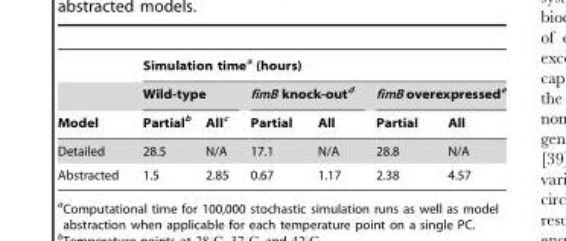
<table><thead><tr><td rowspan="3">Model</td><td colspan="6">Simulation time<sup>a</sup> (hours)</td></tr><tr><td colspan="2">Wild-type</td><td colspan="2">fimB knock-out<sup>d</sup></td><td colspan="2">fimB overexpressed<sup>e</sup></td></tr><tr><td>Partial<sup>b</sup></td><td>All<sup>c</sup></td><td>Partial</td><td>All</td><td>Partial</td><td>All</td></tr></thead><tbody><tr><td>Detailed</td><td>28.5</td><td>N/A</td><td>17.1</td><td>N/A</td><td>28.8</td><td>N/A</td></tr><tr><td>Abstracted</td><td>1.5</td><td>2.85</td><td>0.67</td><td>1.17</td><td>2.38</td><td>4.57</td></tr></tbody></table>